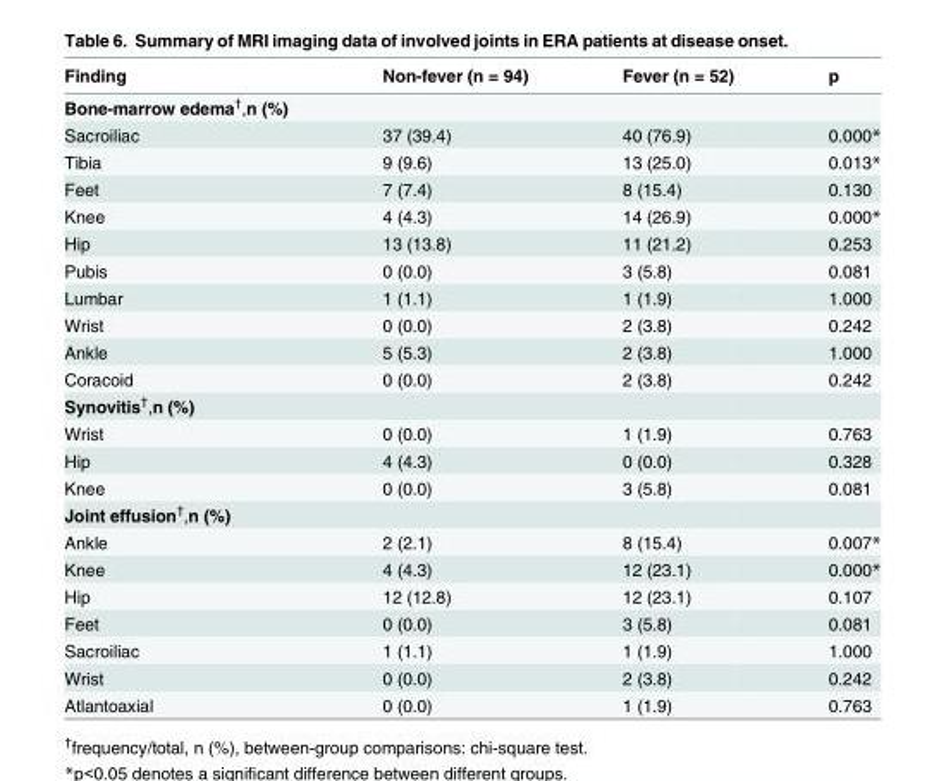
<table><thead><tr><td>Finding</td><td>Non-fever (n = 94)</td><td>Fever (n = 52)</td><td>p</td></tr></thead><tbody><tr><td colspan="4">Bone-marrow edema<sup>†</sup>,n (%)</td></tr><tr><td>Sacroiliac</td><td>37 (39.4)</td><td>40 (76.9)</td><td>0.000*</td></tr><tr><td>Tibia</td><td>9 (9.6)</td><td>13 (25.0)</td><td>0.013*</td></tr><tr><td>Feet</td><td>7 (7.4)</td><td>8 (15.4)</td><td>0.130</td></tr><tr><td>Knee</td><td>4 (4.3)</td><td>14 (26.9)</td><td>0.000*</td></tr><tr><td>Hip</td><td>13 (13.8)</td><td>11 (21.2)</td><td>0.253</td></tr><tr><td>Pubis</td><td>0 (0.0)</td><td>3 (5.8)</td><td>0.081</td></tr><tr><td>Lumbar</td><td>1 (1.1)</td><td>1 (1.9)</td><td>1.000</td></tr><tr><td>Wrist</td><td>0 (0.0)</td><td>2 (3.8)</td><td>0.242</td></tr><tr><td>Ankle</td><td>5 (5.3)</td><td>2 (3.8)</td><td>1.000</td></tr><tr><td>Coracoid</td><td>0 (0.0)</td><td>2 (3.8)</td><td>0.242</td></tr><tr><td colspan="4">Synovitis<sup>†</sup>,n (%)</td></tr><tr><td>Wrist</td><td>0 (0.0)</td><td>1 (1.9)</td><td>0.763</td></tr><tr><td>Hip</td><td>4 (4.3)</td><td>0 (0.0)</td><td>0.328</td></tr><tr><td>Knee</td><td>0 (0.0)</td><td>3 (5.8)</td><td>0.081</td></tr><tr><td colspan="4">Joint effusion<sup>†</sup>,n (%)</td></tr><tr><td>Ankle</td><td>2 (2.1)</td><td>8 (15.4)</td><td>0.007*</td></tr><tr><td>Knee</td><td>4 (4.3)</td><td>12 (23.1)</td><td>0.000*</td></tr><tr><td>Hip</td><td>12 (12.8)</td><td>12 (23.1)</td><td>0.107</td></tr><tr><td>Feet</td><td>0 (0.0)</td><td>3 (5.8)</td><td>0.081</td></tr><tr><td>Sacroiliac</td><td>1 (1.1)</td><td>1 (1.9)</td><td>1.000</td></tr><tr><td>Wrist</td><td>0 (0.0)</td><td>2 (3.8)</td><td>0.242</td></tr><tr><td>Atlantoaxial</td><td>0 (0.0)</td><td>1 (1.9)</td><td>0.763</td></tr></tbody></table>